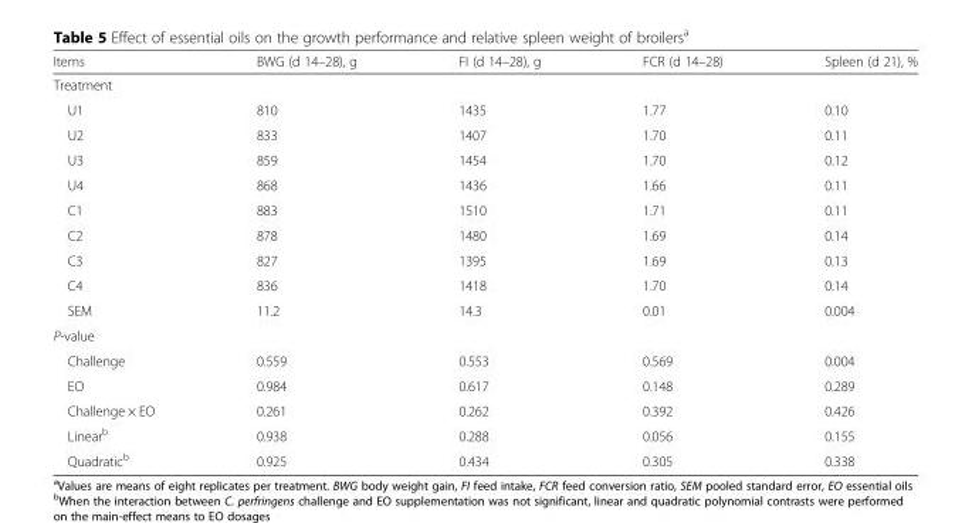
<table><thead><tr><td>Items</td><td>BWG (d 14–28), g</td><td>FI (d 14–28), g</td><td>FCR (d 14–28)</td><td>Spleen (d 21), %</td></tr></thead><tbody><tr><td colspan="5">Treatment</td></tr><tr><td>U1</td><td>810</td><td>1435</td><td>1.77</td><td>0.10</td></tr><tr><td>U2</td><td>833</td><td>1407</td><td>1.70</td><td>0.11</td></tr><tr><td>U3</td><td>859</td><td>1454</td><td>1.70</td><td>0.12</td></tr><tr><td>U4</td><td>868</td><td>1436</td><td>1.66</td><td>0.11</td></tr><tr><td>C1</td><td>883</td><td>1510</td><td>1.71</td><td>0.11</td></tr><tr><td>C2</td><td>878</td><td>1480</td><td>1.69</td><td>0.14</td></tr><tr><td>C3</td><td>827</td><td>1395</td><td>1.69</td><td>0.13</td></tr><tr><td>C4</td><td>836</td><td>1418</td><td>1.70</td><td>0.14</td></tr><tr><td>SEM</td><td>11.2</td><td>14.3</td><td>0.01</td><td>0.004</td></tr><tr><td colspan="5">P-value</td></tr><tr><td>Challenge</td><td>0.559</td><td>0.553</td><td>0.569</td><td>0.004</td></tr><tr><td>EO</td><td>0.984</td><td>0.617</td><td>0.148</td><td>0.289</td></tr><tr><td>Challenge × EO</td><td>0.261</td><td>0.262</td><td>0.392</td><td>0.426</td></tr><tr><td>Linear<sup>b</sup></td><td>0.938</td><td>0.288</td><td>0.056</td><td>0.155</td></tr><tr><td>Quadratic<sup>b</sup></td><td>0.925</td><td>0.434</td><td>0.305</td><td>0.338</td></tr></tbody></table>